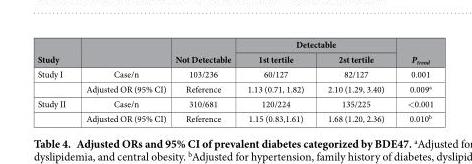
<table><thead><tr><td rowspan="2">Study</td><td rowspan="2"></td><td rowspan="2">Not Detectable</td><td colspan="2">Detectable</td><td rowspan="2">P<sub>trend</sub></td></tr><tr><td>1st tertile</td><td>2st tertile</td></tr></thead><tbody><tr><td rowspan="2">Study I</td><td>Case/n</td><td>103/236</td><td>60/127</td><td>82/127</td><td>0.001</td></tr><tr><td>Adjusted OR (95% CI)</td><td>Reference</td><td>1.13 (0.71, 1.82)</td><td>2.10 (1.29, 3.40)</td><td>0.009<sup>a</sup></td></tr><tr><td rowspan="2">Study II</td><td>Case/n</td><td>310/681</td><td>120/224</td><td>135/225</td><td>&lt; 0.001</td></tr><tr><td>Adjusted OR (95% CI)</td><td>Reference</td><td>1.15 (0.83,1.61)</td><td>1.68 (1.20, 2.36)</td><td>0.010<sup>b</sup></td></tr></tbody></table>